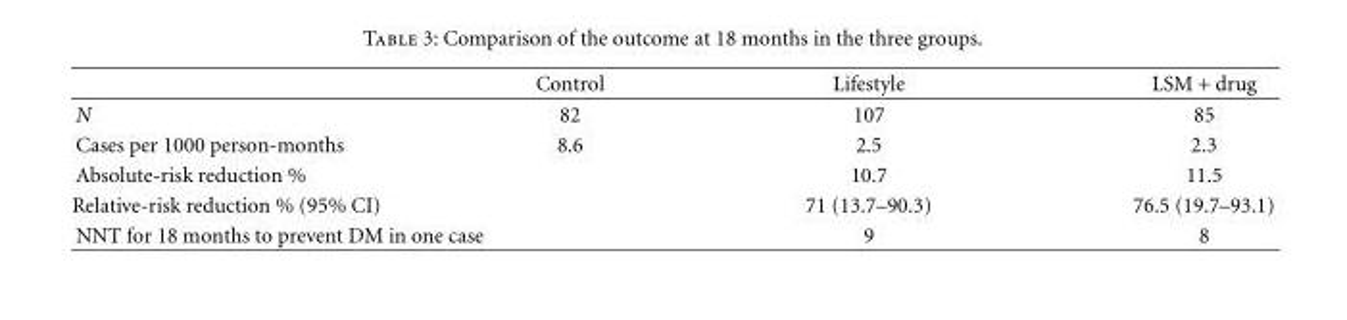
<table><thead><tr><td></td><td>Control</td><td>Lifestyle</td><td>LSM + drug</td></tr></thead><tbody><tr><td>N</td><td>82</td><td>107</td><td>85</td></tr><tr><td>Cases per 1000 person-months</td><td>8.6</td><td>2.5</td><td>2.3</td></tr><tr><td>Absolute-risk reduction %</td><td></td><td>10.7</td><td>11.5</td></tr><tr><td colspan="2">Relative-risk reduction % (95% CI)</td><td>71 (13.7–90.3)</td><td>76.5 (19.7–93.1)</td></tr><tr><td colspan="2">NNT for 18 months to prevent DM in one case</td><td>9</td><td>8</td></tr></tbody></table>